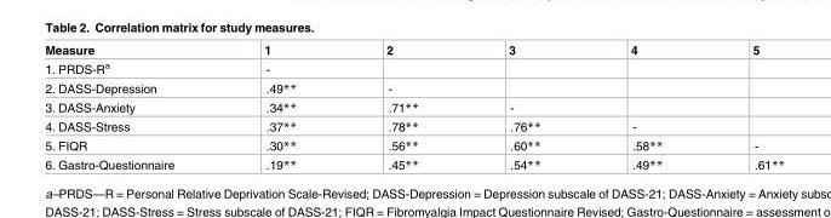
<table><thead><tr><td>Measure</td><td>1</td><td>2</td><td>3</td><td>4</td><td>5</td></tr></thead><tbody><tr><td>1. PRDS-R<sup>a</sup></td><td>-</td><td></td><td></td><td></td><td></td></tr><tr><td>2. DASS-Depression</td><td>.49**</td><td>-</td><td></td><td></td><td></td></tr><tr><td>3. DASS-Anxiety</td><td>.34**</td><td>.71**</td><td>-</td><td></td><td></td></tr><tr><td>4. DASS-Stress</td><td>.37**</td><td>.78**</td><td>.76**</td><td>-</td><td></td></tr><tr><td>5. FIQR</td><td>.30**</td><td>.56**</td><td>.60**</td><td>.58**</td><td>-</td></tr><tr><td>6. Gastro-Questionnaire</td><td>.19**</td><td>.45**</td><td>.54**</td><td>.49**</td><td>.61**</td></tr></tbody></table>